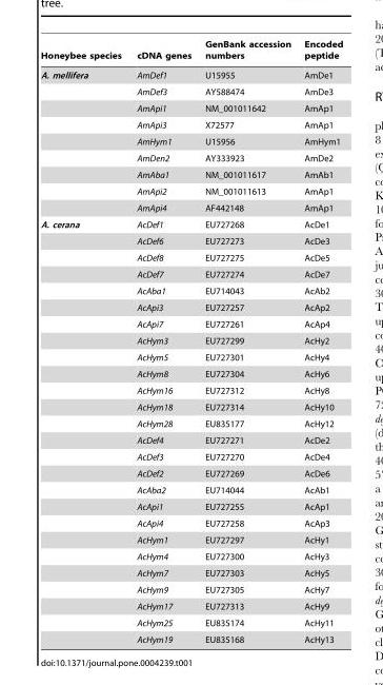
<table><thead><tr><td>Honeybee species</td><td>cDNA genes</td><td>GenBank accession numbers</td><td>Encoded peptide</td></tr></thead><tbody><tr><td rowspan="9">A. mellifera</td><td>AmDef1</td><td>U15955</td><td>AmDe1</td></tr><tr><td>AmDef3</td><td>AY588474</td><td>AmDe3</td></tr><tr><td>AmApi1</td><td>NM_001011642</td><td>AmAp1</td></tr><tr><td>AmApi3</td><td>X72577</td><td>AmAp1</td></tr><tr><td>AmHym1</td><td>U15956</td><td>AmHym1</td></tr><tr><td>AmDen2</td><td>AY333923</td><td>AmDe2</td></tr><tr><td>AmAba1</td><td>NM_001011617</td><td>AmAb1</td></tr><tr><td>AmApi2</td><td>NM_001011613</td><td>AmAp1</td></tr><tr><td>AmApi4</td><td>AF442148</td><td>AmAp1</td></tr><tr><td rowspan="26">A. cerana</td><td>AcDef1</td><td>EU727268</td><td>AcDe1</td></tr><tr><td>AcDef6</td><td>EU727273</td><td>AcDe3</td></tr><tr><td>AcDef8</td><td>EU727275</td><td>AcDe5</td></tr><tr><td>AcDef7</td><td>EU727274</td><td>AcDe7</td></tr><tr><td>AcAba1</td><td>EU714043</td><td>AcAb2</td></tr><tr><td>AcApi3</td><td>EU727257</td><td>AcAp2</td></tr><tr><td>AcApi7</td><td>EU727261</td><td>AcAp4</td></tr><tr><td>AcHym3</td><td>EU727299</td><td>AcHy2</td></tr><tr><td>AcHym5</td><td>EU727301</td><td>AcHy4</td></tr><tr><td>AcHym8</td><td>EU727304</td><td>AcHy6</td></tr><tr><td>AcHym16</td><td>EU727312</td><td>AcHy8</td></tr><tr><td>AcHym18</td><td>EU727314</td><td>AcHy10</td></tr><tr><td>AcHym28</td><td>EU835177</td><td>AcHy12</td></tr><tr><td>AcDef4</td><td>EU727271</td><td>AcDe2</td></tr><tr><td>AcDef3</td><td>EU727270</td><td>AcDe4</td></tr><tr><td>AcDef2</td><td>EU727269</td><td>AcDe6</td></tr><tr><td>AcAba2</td><td>EU714044</td><td>AcAb1</td></tr><tr><td>AcApi1</td><td>EU727255</td><td>AcAp1</td></tr><tr><td>AcApi4</td><td>EU727258</td><td>AcAp3</td></tr><tr><td>AcHym1</td><td>EU727297</td><td>AcHy1</td></tr><tr><td>AcHym4</td><td>EU727300</td><td>AcHy3</td></tr><tr><td>AcHym7</td><td>EU727303</td><td>AcHy5</td></tr><tr><td>AcHym9</td><td>EU727305</td><td>AcHy7</td></tr><tr><td>AcHym17</td><td>EU727313</td><td>AcHy9</td></tr><tr><td>AcHym25</td><td>EU835174</td><td>AcHy11</td></tr><tr><td>AcHym19</td><td>EU835168</td><td>AcHy13</td></tr></tbody></table>